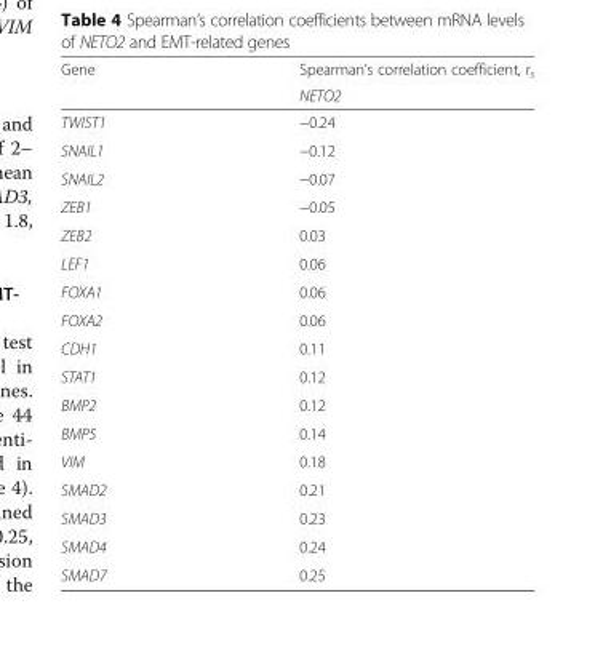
<table><thead><tr><td rowspan="2">Gene</td><td rowspan="2">Spearman’s correlation coefficient, r<sub>s</sub> NETO2</td></tr><tr></tr></thead><tbody><tr><td>TWIST1</td><td>−0.24</td></tr><tr><td>SNAIL1</td><td>−0.12</td></tr><tr><td>SNAIL2</td><td>−0.07</td></tr><tr><td>ZEB1</td><td>−0.05</td></tr><tr><td>ZEB2</td><td>0.03</td></tr><tr><td>LEF1</td><td>0.06</td></tr><tr><td>FOXA1</td><td>0.06</td></tr><tr><td>FOXA2</td><td>0.06</td></tr><tr><td>CDH1</td><td>0.11</td></tr><tr><td>STAT1</td><td>0.12</td></tr><tr><td>BMP2</td><td>0.12</td></tr><tr><td>BMP5</td><td>0.14</td></tr><tr><td>VIM</td><td>0.18</td></tr><tr><td>SMAD2</td><td>0.21</td></tr><tr><td>SMAD3</td><td>0.23</td></tr><tr><td>SMAD4</td><td>0.24</td></tr><tr><td>SMAD7</td><td>0.25</td></tr></tbody></table>